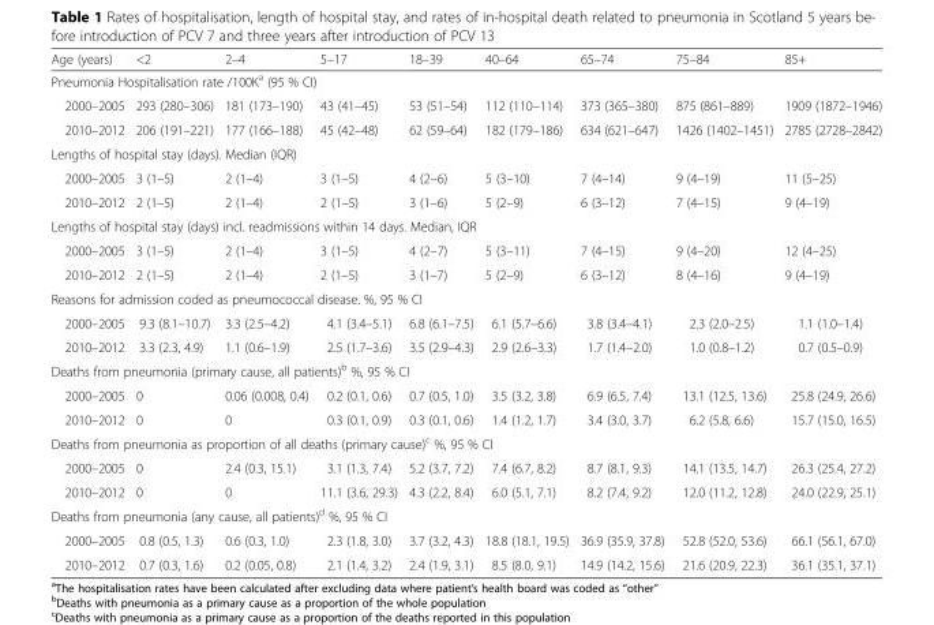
<table><thead><tr><td>Age (years)</td><td>&lt;2</td><td>2–4</td><td>5–17</td><td>18–39</td><td>40–64</td><td>65–74</td><td>75–84</td><td>85+</td></tr></thead><tbody><tr><td colspan="9">Pneumonia Hospitalisation rate /100K<sup>a</sup> (95 % CI)</td></tr><tr><td>2000–2005</td><td>293 (280–306)</td><td>181 (173–190)</td><td>43 (41–45)</td><td>53 (51–54)</td><td>112 (110–114)</td><td>373 (365–380)</td><td>875 (861–889)</td><td>1909 (1872–1946)</td></tr><tr><td>2010–2012</td><td>206 (191–221)</td><td>177 (166–188)</td><td>45 (42–48)</td><td>62 (59–64)</td><td>182 (179–186)</td><td>634 (621–647)</td><td>1426 (1402–1451)</td><td>2785 (2728–2842)</td></tr><tr><td colspan="9">Lengths of hospital stay (days). Median (IQR)</td></tr><tr><td>2000–2005</td><td>3 (1–5)</td><td>2 (1–4)</td><td>3 (1–5)</td><td>4 (2–6)</td><td>5 (3–10)</td><td>7 (4–14)</td><td>9 (4–19)</td><td>11 (5–25)</td></tr><tr><td>2010–2012</td><td>2 (1–5)</td><td>2 (1–4)</td><td>2 (1–5)</td><td>3 (1–6)</td><td>5 (2–9)</td><td>6 (3–12)</td><td>7 (4–15)</td><td>9 (4–19)</td></tr><tr><td colspan="9">Lengths of hospital stay (days) incl. readmissions within 14 days. Median, IQR</td></tr><tr><td>2000–2005</td><td>3 (1–5)</td><td>2 (1–4)</td><td>3 (1–5)</td><td>4 (2–7)</td><td>5 (3–11)</td><td>7 (4–15)</td><td>9 (4–20)</td><td>12 (4–25)</td></tr><tr><td>2010–2012</td><td>2 (1–5)</td><td>2 (1–4)</td><td>2 (1–5)</td><td>3 (1–7)</td><td>5 (2–9)</td><td>6 (3–12)</td><td>8 (4–16)</td><td>9 (4–19)</td></tr><tr><td colspan="9">Reasons for admission coded as pneumococcal disease. %, 95 % CI</td></tr><tr><td>2000–2005</td><td>9.3 (8.1–10.7)</td><td>3.3 (2.5–4.2)</td><td>4.1 (3.4–5.1)</td><td>6.8 (6.1–7.5)</td><td>6.1 (5.7–6.6)</td><td>3.8 (3.4–4.1)</td><td>2.3 (2.0–2.5)</td><td>1.1 (1.0–1.4)</td></tr><tr><td>2010–2012</td><td>3.3 (2.3, 4.9)</td><td>1.1 (0.6–1.9)</td><td>2.5 (1.7–3.6)</td><td>3.5 (2.9–4.3)</td><td>2.9 (2.6–3.3)</td><td>1.7 (1.4–2.0)</td><td>1.0 (0.8–1.2)</td><td>0.7 (0.5–0.9)</td></tr><tr><td colspan="9">Deaths from pneumonia (primary cause, all patients)<sup>b</sup> %, 95 % CI</td></tr><tr><td>2000–2005</td><td>0</td><td>0.06 (0.008, 0.4)</td><td>0.2 (0.1, 0.6)</td><td>0.7 (0.5, 1.0)</td><td>3.5 (3.2, 3.8)</td><td>6.9 (6.5, 7.4)</td><td>13.1 (12.5, 13.6)</td><td>25.8 (24.9, 26.6)</td></tr><tr><td>2010–2012</td><td>0</td><td>0</td><td>0.3 (0.1, 0.9)</td><td>0.3 (0.1, 0.6)</td><td>1.4 (1.2, 1.7)</td><td>3.4 (3.0, 3.7)</td><td>6.2 (5.8, 6.6)</td><td>15.7 (15.0, 16.5)</td></tr><tr><td colspan="9">Deaths from pneumonia as proportion of all deaths (primary cause)<sup>c</sup> %, 95 % CI</td></tr><tr><td>2000–2005</td><td>0</td><td>2.4 (0.3, 15.1)</td><td>3.1 (1.3, 7.4)</td><td>5.2 (3.7, 7.2)</td><td>7.4 (6.7, 8.2)</td><td>8.7 (8.1, 9.3)</td><td>14.1 (13.5, 14.7)</td><td>26.3 (25.4, 27.2)</td></tr><tr><td>2010–2012</td><td>0</td><td>0</td><td>11.1 (3.6, 29.3)</td><td>4.3 (2.2, 8.4)</td><td>6.0 (5.1, 7.1)</td><td>8.2 (7.4, 9.2)</td><td>12.0 (11.2, 12.8)</td><td>24.0 (22.9, 25.1)</td></tr><tr><td colspan="9">Deaths from pneumonia (any cause, all patients)<sup>d</sup> %, 95 % CI</td></tr><tr><td>2000–2005</td><td>0.8 (0.5, 1.3)</td><td>0.6 (0.3, 1.0)</td><td>2.3 (1.8, 3.0)</td><td>3.7 (3.2, 4.3)</td><td>18.8 (18.1, 19.5)</td><td>36.9 (35.9, 37.8)</td><td>52.8 (52.0, 53.6)</td><td>66.1 (56.1, 67.0)</td></tr><tr><td>2010–2012</td><td>0.7 (0.3, 1.6)</td><td>0.2 (0.05, 0.8)</td><td>2.1 (1.4, 3.2)</td><td>2.4 (1.9, 3.1)</td><td>8.5 (8.0, 9.1)</td><td>14.9 (14.2, 15.6)</td><td>21.6 (20.9, 22.3)</td><td>36.1 (35.1, 37.1)</td></tr></tbody></table>